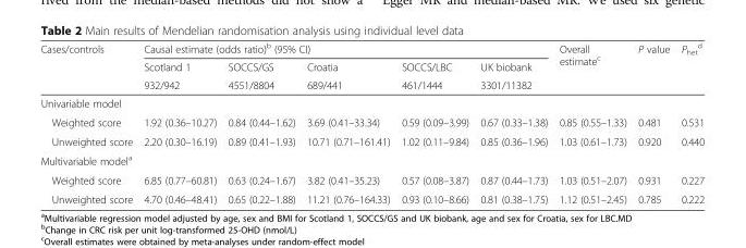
<table><thead><tr><td rowspan="3">Cases/controls</td><td colspan="5">Causal estimate (odds ratio)<sup>b</sup> (95% CI)</td><td rowspan="3">Overall estimate<sup>c</sup></td><td rowspan="3">P value</td><td rowspan="3">P<sub>het</sub> <sup>d</sup></td></tr><tr><td rowspan="2">Scotland 1 932/942</td><td rowspan="2">SOCCS/GS 4551/8804</td><td rowspan="2">Croatia 689/441</td><td rowspan="2">SOCCS/LBC 461/1444</td><td rowspan="2">UK biobank 3301/11382</td></tr><tr></tr></thead><tbody><tr><td colspan="9">Univariable model</td></tr><tr><td>Weighted score</td><td>1.92 (0.36–10.27)</td><td>0.84 (0.44–1.62)</td><td>3.69 (0.41–33.34)</td><td>0.59 (0.09–3.99)</td><td>0.67 (0.33–1.38)</td><td>0.85 (0.55–1.33)</td><td>0.481</td><td>0.531</td></tr><tr><td>Unweighted score</td><td>2.20 (0.30–16.19)</td><td>0.89 (0.41–1.93)</td><td>10.71 (0.71–161.41)</td><td>1.02 (0.11–9.84)</td><td>0.85 (0.36–1.96)</td><td>1.03 (0.61–1.73)</td><td>0.920</td><td>0.440</td></tr><tr><td colspan="9">Multivariable model<sup>a</sup></td></tr><tr><td>Weighted score</td><td>6.85 (0.77–60.81)</td><td>0.63 (0.24–1.67)</td><td>3.82 (0.41–35.23)</td><td>0.57 (0.08–3.87)</td><td>0.87 (0.44–1.73)</td><td>1.03 (0.51–2.07)</td><td>0.931</td><td>0.227</td></tr><tr><td>Unweighted score</td><td>4.70 (0.46–48.41)</td><td>0.65 (0.22–1.88)</td><td>11.21 (0.76–164.33)</td><td>0.93 (0.10–8.66)</td><td>0.81 (0.38–1.75)</td><td>1.12 (0.51–2.45)</td><td>0.785</td><td>0.222</td></tr></tbody></table>